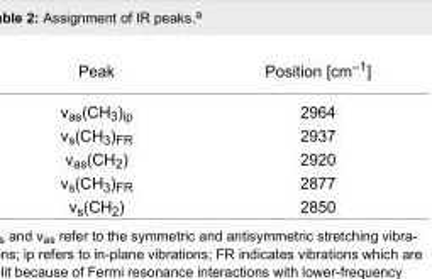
<table><tbody><tr><td>Peak</td><td>Position [cm<sup>–1</sup>]</td></tr><tr><td>ν<sub>as</sub>(CH<sub>3</sub>)<sub>ip</sub></td><td>2964</td></tr><tr><td>ν<sub>s</sub>(CH<sub>3</sub>)<sub>FR</sub></td><td>2937</td></tr><tr><td>ν<sub>as</sub>(CH<sub>2</sub>)</td><td>2920</td></tr><tr><td>ν<sub>s</sub>(CH<sub>3</sub>)<sub>FR</sub></td><td>2877</td></tr><tr><td>ν<sub>s</sub>(CH<sub>2</sub>)</td><td>2850</td></tr></tbody></table>